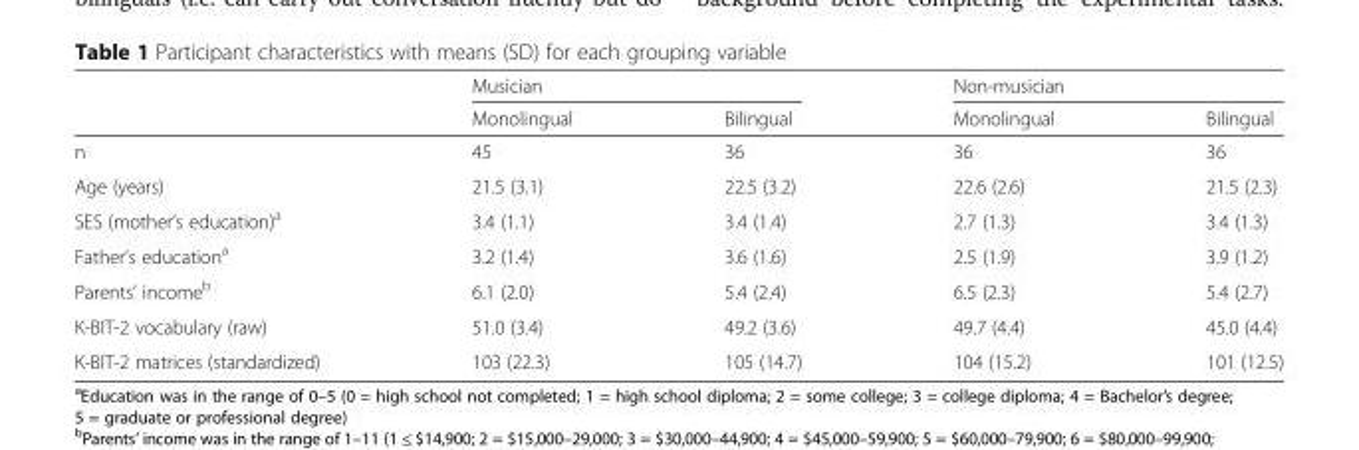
<table><thead><tr><td rowspan="2"></td><td colspan="2">Musician</td><td colspan="2">Non-musician</td></tr><tr><td>Monolingual</td><td>Bilingual</td><td>Monolingual</td><td>Bilingual</td></tr></thead><tbody><tr><td>n</td><td>45</td><td>36</td><td>36</td><td>36</td></tr><tr><td>Age (years)</td><td>21.5 (3.1)</td><td>22.5 (3.2)</td><td>22.6 (2.6)</td><td>21.5 (2.3)</td></tr><tr><td>SES (mother’s education)<sup>a</sup></td><td>3.4 (1.1)</td><td>3.4 (1.4)</td><td>2.7 (1.3)</td><td>3.4 (1.3)</td></tr><tr><td>Father’s education<sup>a</sup></td><td>3.2 (1.4)</td><td>3.6 (1.6)</td><td>2.5 (1.9)</td><td>3.9 (1.2)</td></tr><tr><td>Parents’ income<sup>b</sup></td><td>6.1 (2.0)</td><td>5.4 (2.4)</td><td>6.5 (2.3)</td><td>5.4 (2.7)</td></tr><tr><td>K-BIT-2 vocabulary (raw)</td><td>51.0 (3.4)</td><td>49.2 (3.6)</td><td>49.7 (4.4)</td><td>45.0 (4.4)</td></tr><tr><td>K-BIT-2 matrices (standardized)</td><td>103 (22.3)</td><td>105 (14.7)</td><td>104 (15.2)</td><td>101 (12.5)</td></tr></tbody></table>